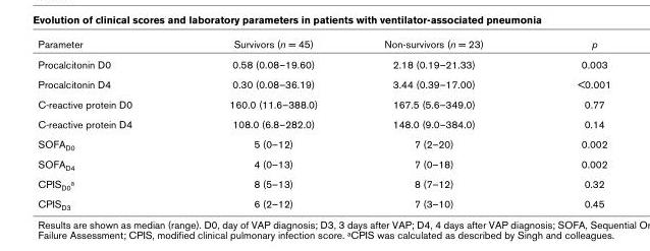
<table><thead><tr><td>Parameter</td><td>Survivors (n = 45)</td><td>Non-survivors (n = 23)</td><td>p</td></tr></thead><tbody><tr><td>Procalcitonin D0</td><td>0.58 (0.08–19.60)</td><td>2.18 (0.19–21.33)</td><td>0.003</td></tr><tr><td>Procalcitonin D4</td><td>0.30 (0.08–36.19)</td><td>3.44 (0.39–17.00)</td><td>&lt;0.001</td></tr><tr><td>C-reactive protein D0</td><td>160.0 (11.6–388.0)</td><td>167.5 (5.6–349.0)</td><td>0.77</td></tr><tr><td>C-reactive protein D4</td><td>108.0 (6.8–282.0)</td><td>148.0 (9.0–384.0)</td><td>0.14</td></tr><tr><td>SOFAD0</td><td>5 (0–12)</td><td>7 (2–20)</td><td>0.002</td></tr><tr><td>SOFAD4</td><td>4 (0–13)</td><td>7 (0–18)</td><td>0.002</td></tr><tr><td>CPISD0a</td><td>8 (5–13)</td><td>8 (7–12)</td><td>0.32</td></tr><tr><td>CPISD3</td><td>6 (2–12)</td><td>7 (3–10)</td><td>0.45</td></tr></tbody></table>